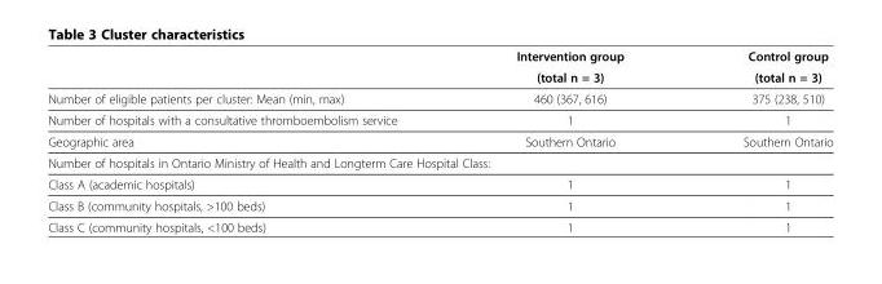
<table><thead><tr><td rowspan="2"></td><td rowspan="2">Intervention group (total n = 3)</td><td rowspan="2">Control group (total n = 3)</td></tr><tr></tr></thead><tbody><tr><td>Number of eligible patients per cluster: Mean (min, max)</td><td>460 (367, 616)</td><td>375 (238, 510)</td></tr><tr><td>Number of hospitals with a consultative thromboembolism service</td><td>1</td><td>1</td></tr><tr><td>Geographic area</td><td>Southern Ontario</td><td>Southern Ontario</td></tr><tr><td colspan="3">Number of hospitals in Ontario Ministry of Health and Longterm Care Hospital Class:</td></tr><tr><td>Class A (academic hospitals)</td><td>1</td><td>1</td></tr><tr><td>Class B (community hospitals, &gt;100 beds)</td><td>1</td><td>1</td></tr><tr><td>Class C (community hospitals, &lt;100 beds)</td><td>1</td><td>1</td></tr></tbody></table>